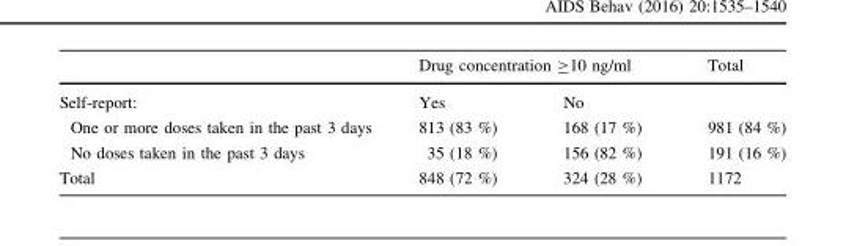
<table><thead><tr><td rowspan="2">Self-report:</td><td colspan="2">Drug concentration ≥10 ng/ml</td><td rowspan="2">Total</td></tr><tr><td>Yes</td><td>No</td></tr></thead><tbody><tr><td>One or more doses taken in the past 3 days</td><td>813 (83 %)</td><td>168 (17 %)</td><td>981 (84 %)</td></tr><tr><td>No doses taken in the past 3 days</td><td>35 (18 %)</td><td>156 (82 %)</td><td>191 (16 %)</td></tr><tr><td>Total</td><td>848 (72 %)</td><td>324 (28 %)</td><td>1172</td></tr></tbody></table>